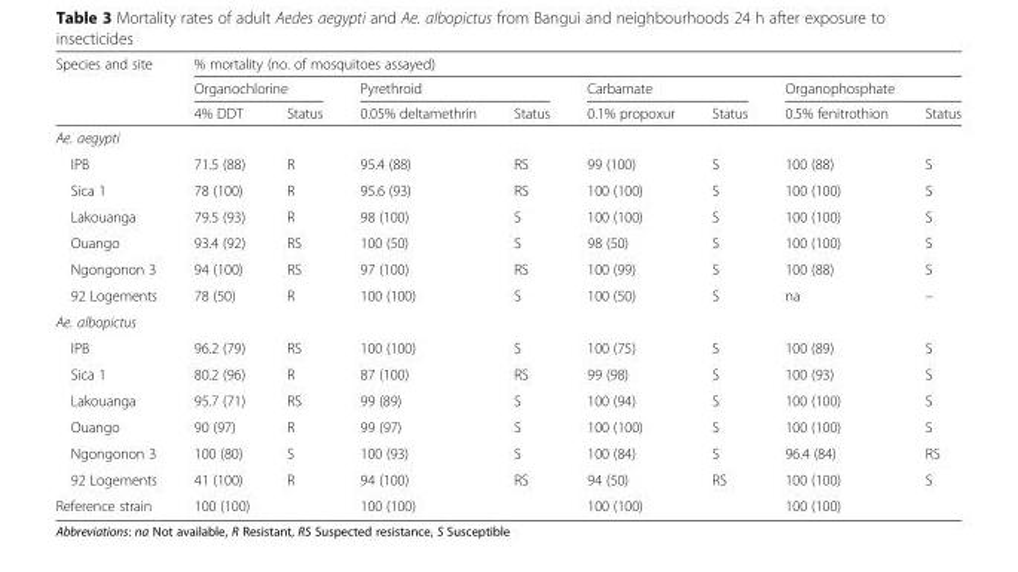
<table><thead><tr><td rowspan="3">Species and site</td><td colspan="8">% mortality (no. of mosquitoes assayed)</td></tr><tr><td colspan="2">Organochlorine</td><td colspan="2">Pyrethroid</td><td colspan="2">Carbamate</td><td colspan="2">Organophosphate</td></tr><tr><td>4% DDT</td><td>Status</td><td>0.05% deltamethrin</td><td>Status</td><td>0.1% propoxur</td><td>Status</td><td>0.5% fenitrothion</td><td>Status</td></tr></thead><tbody><tr><td colspan="9">Ae. aegypti</td></tr><tr><td>IPB</td><td>71.5 (88)</td><td>R</td><td>95.4 (88)</td><td>RS</td><td>99 (100)</td><td>S</td><td>100 (88)</td><td>S</td></tr><tr><td>Sica 1</td><td>78 (100)</td><td>R</td><td>95.6 (93)</td><td>RS</td><td>100 (100)</td><td>S</td><td>100 (100)</td><td>S</td></tr><tr><td>Lakouanga</td><td>79.5 (93)</td><td>R</td><td>98 (100)</td><td>S</td><td>100 (100)</td><td>S</td><td>100 (100)</td><td>S</td></tr><tr><td>Ouango</td><td>93.4 (92)</td><td>RS</td><td>100 (50)</td><td>S</td><td>98 (50)</td><td>S</td><td>100 (100)</td><td>S</td></tr><tr><td>Ngongonon 3</td><td>94 (100)</td><td>RS</td><td>97 (100)</td><td>RS</td><td>100 (99)</td><td>S</td><td>100 (88)</td><td>S</td></tr><tr><td>92 Logements</td><td>78 (50)</td><td>R</td><td>100 (100)</td><td>S</td><td>100 (50)</td><td>S</td><td>na</td><td>–</td></tr><tr><td colspan="9">Ae. albopictus</td></tr><tr><td>IPB</td><td>96.2 (79)</td><td>RS</td><td>100 (100)</td><td>S</td><td>100 (75)</td><td>S</td><td>100 (89)</td><td>S</td></tr><tr><td>Sica 1</td><td>80.2 (96)</td><td>R</td><td>87 (100)</td><td>RS</td><td>99 (98)</td><td>S</td><td>100 (93)</td><td>S</td></tr><tr><td>Lakouanga</td><td>95.7 (71)</td><td>RS</td><td>99 (89)</td><td>S</td><td>100 (94)</td><td>S</td><td>100 (100)</td><td>S</td></tr><tr><td>Ouango</td><td>90 (97)</td><td>R</td><td>99 (97)</td><td>S</td><td>100 (100)</td><td>S</td><td>100 (100)</td><td>S</td></tr><tr><td>Ngongonon 3</td><td>100 (80)</td><td>S</td><td>100 (93)</td><td>S</td><td>100 (84)</td><td>S</td><td>96.4 (84)</td><td>RS</td></tr><tr><td>92 Logements</td><td>41 (100)</td><td>R</td><td>94 (100)</td><td>RS</td><td>94 (50)</td><td>RS</td><td>100 (100)</td><td>S</td></tr><tr><td>Reference strain</td><td>100 (100)</td><td></td><td>100 (100)</td><td></td><td>100 (100)</td><td></td><td>100 (100)</td><td></td></tr></tbody></table>